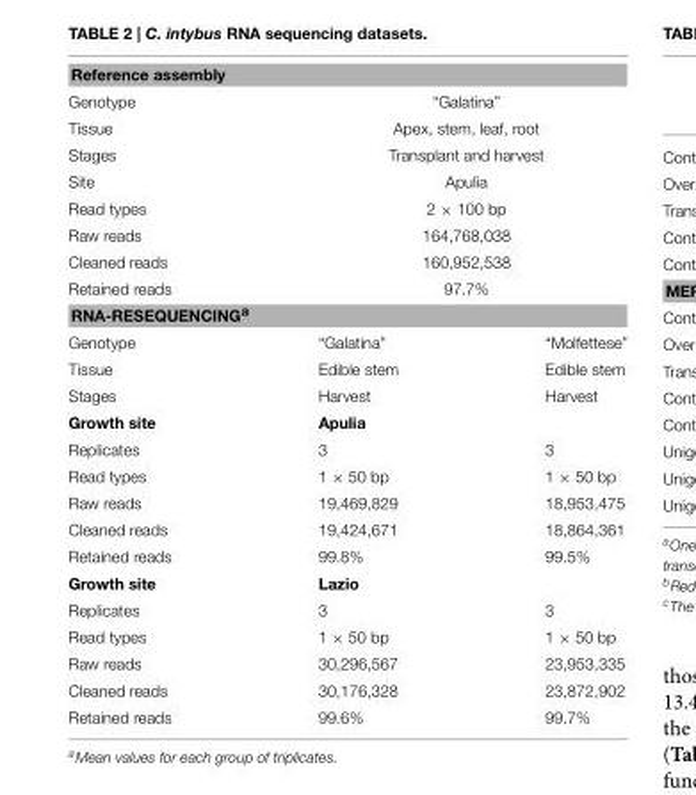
<table><tbody><tr><td colspan="3">Reference assembly</td></tr><tr><td>Genotype</td><td colspan="2">“Galatina”</td></tr><tr><td>Tissue</td><td colspan="2">Apex, stem, leaf, root</td></tr><tr><td>Stages</td><td colspan="2">Transplant and harvest</td></tr><tr><td>Site</td><td colspan="2">Apulia</td></tr><tr><td>Read types</td><td colspan="2">2 × 100 bp</td></tr><tr><td>Raw reads</td><td colspan="2">164,768,038</td></tr><tr><td>Cleaned reads</td><td colspan="2">160,952,538</td></tr><tr><td>Retained reads</td><td colspan="2">97.7%</td></tr><tr><td colspan="3">RNA-RESEQUENCING<sup>a</sup></td></tr><tr><td>Genotype</td><td>“Galatina”</td><td>“Molfettese”</td></tr><tr><td>Tissue</td><td>Edible stem</td><td>Edible stem</td></tr><tr><td>Stages</td><td>Harvest</td><td>Harvest</td></tr><tr><td>Growth site</td><td>Apulia</td><td></td></tr><tr><td>Replicates</td><td>3</td><td>3</td></tr><tr><td>Read types</td><td>1 × 50 bp</td><td>1 × 50 bp</td></tr><tr><td>Raw reads</td><td>19,469,829</td><td>18,953,475</td></tr><tr><td>Cleaned reads</td><td>19,424,671</td><td>18,864,361</td></tr><tr><td>Retained reads</td><td>99.8%</td><td>99.5%</td></tr><tr><td>Growth site</td><td>Lazio</td><td></td></tr><tr><td>Replicates</td><td>3</td><td>3</td></tr><tr><td>Read types</td><td>1 × 50 bp</td><td>1 × 50 bp</td></tr><tr><td>Raw reads</td><td>30,296,567</td><td>23,953,335</td></tr><tr><td>Cleaned reads</td><td>30,176,328</td><td>23,872,902</td></tr><tr><td>Retained reads</td><td>99.6%</td><td>99.7%</td></tr></tbody></table>